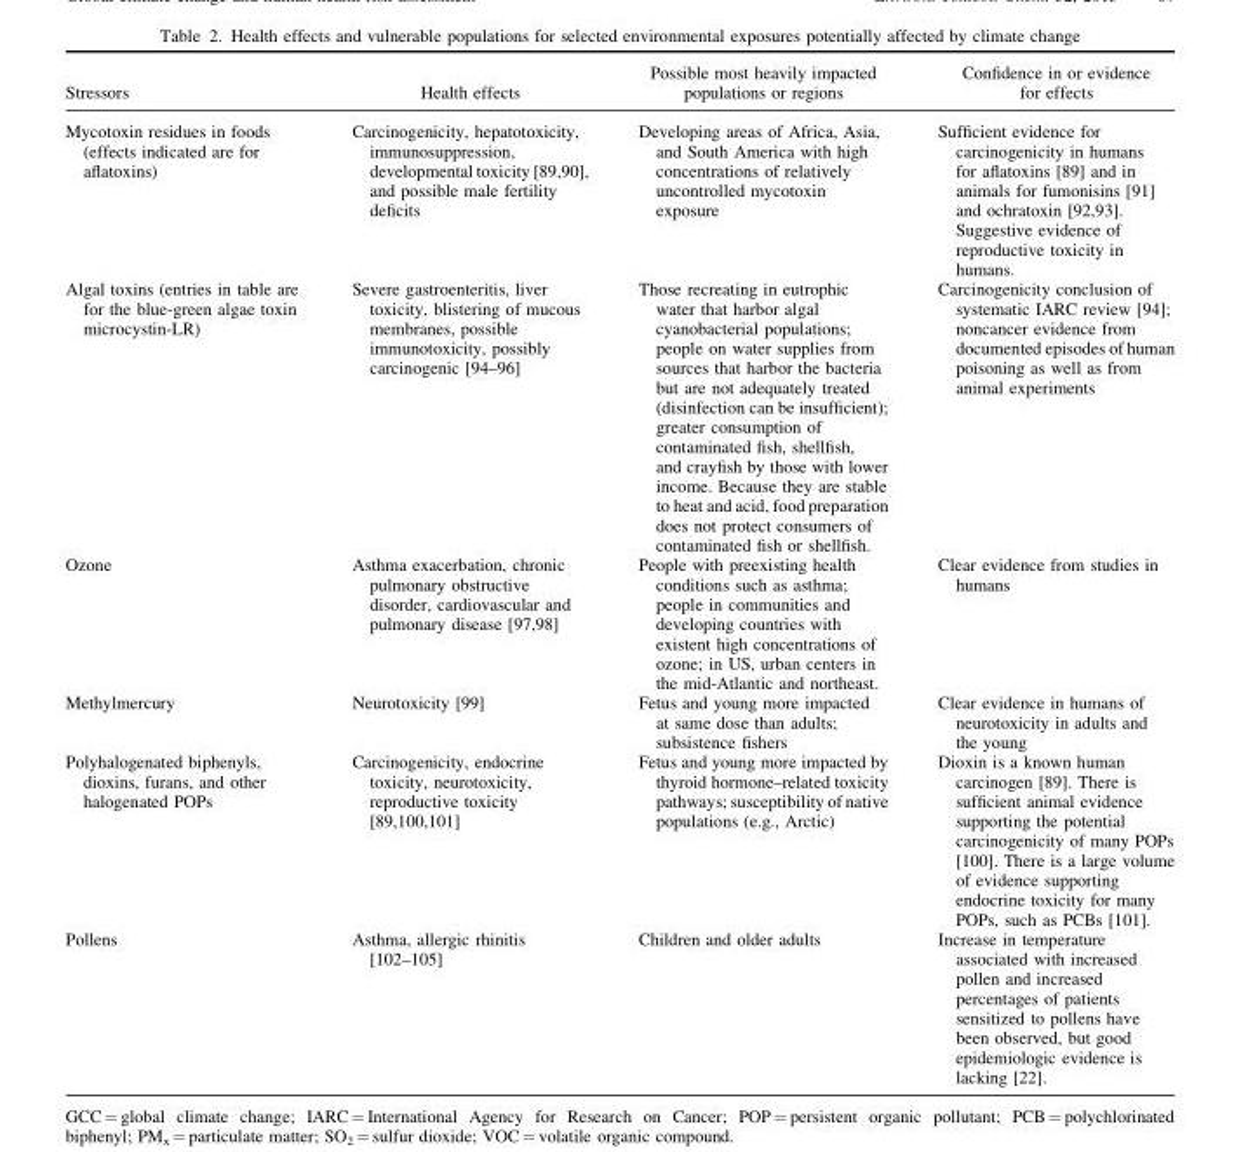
<table><thead><tr><td>Stressors</td><td>Health effects</td><td>Possible most heavily impacted populations or regions</td><td>Confidence in or evidence for effects</td></tr></thead><tbody><tr><td>Mycotoxin residues in foods (effects indicated are for aflatoxins)</td><td>Carcinogenicity, hepatotoxicity, immunosuppression, developmental toxicity [89,90], and possible male fertility deficits</td><td>Developing areas of Africa, Asia, and South America with high concentrations of relatively uncontrolled mycotoxin exposure</td><td>Sufficient evidence for carcinogenicity in humans for aflatoxins [89] and in animals for fumonisins [91] and ochratoxin [92,93]. Suggestive evidence of reproductive toxicity in humans.</td></tr><tr><td>Algal toxins (entries in table are for the blue-green algae toxin microcystin-LR)</td><td>Severe gastroenteritis, liver toxicity, blistering of mucous membranes, possible immunotoxicity, possibly carcinogenic [94–96]</td><td>Those recreating in eutrophic water that harbor algal cyanobacterial populations; people on water supplies from sources that harbor the bacteria but are not adequately treated (disinfection can be insufficient); greater consumption of contaminated fish, shellfish, and crayfish by those with lower income. Because they are stable to heat and acid, food preparation does not protect consumers of contaminated fish or shellfish.</td><td>Carcinogenicity conclusion of systematic IARC review [94]; noncancer evidence from documented episodes of human poisoning as well as from animal experiments</td></tr><tr><td>Ozone</td><td>Asthma exacerbation, chronic pulmonary obstructive disorder, cardiovascular and pulmonary disease [97,98]</td><td>People with preexisting health conditions such as asthma; people in communities and developing countries with existent high concentrations of ozone; in US, urban centers in the mid-Atlantic and northeast.</td><td>Clear evidence from studies in humans</td></tr><tr><td>Methylmercury</td><td>Neurotoxicity [99]</td><td>Fetus and young more impacted at same dose than adults; subsistence fishers</td><td>Clear evidence in humans of neurotoxicity in adults and the young</td></tr><tr><td>Polyhalogenated biphenyls, dioxins, furans, and other halogenated POPs</td><td>Carcinogenicity, endocrine toxicity, neurotoxicity, reproductive toxicity [89,100,101]</td><td>Fetus and young more impacted by thyroid hormone–related toxicity pathways; susceptibility of native populations (e.g., Arctic)</td><td>Dioxin is a known human carcinogen [89]. There is sufficient animal evidence supporting the potential carcinogenicity of many POPs [100]. There is a large volume of evidence supporting endocrine toxicity for many POPs, such as PCBs [101].</td></tr><tr><td>Pollens</td><td>Asthma, allergic rhinitis [102–105]</td><td>Children and older adults</td><td>Increase in temperature associated with increased pollen and increased percentages of patients sensitized to pollens have been observed, but good epidemiologic evidence is lacking [22].</td></tr></tbody></table>